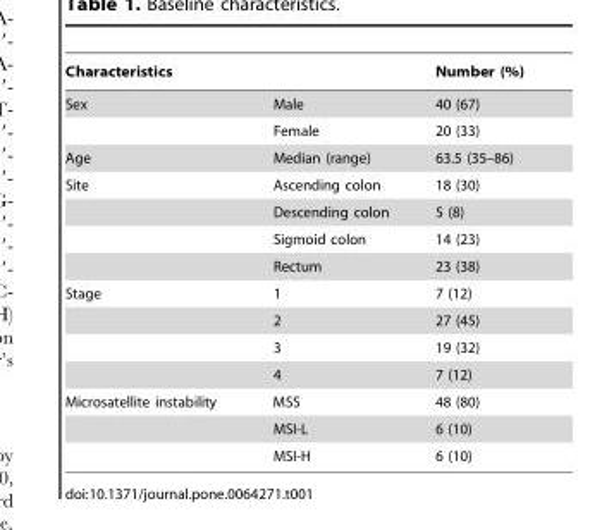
<table><thead><tr><td colspan="2">Characteristics</td><td rowspan="2">Number (%) 40 (67)</td></tr><tr><td>Sex</td><td>Male</td></tr></thead><tbody><tr><td></td><td>Female</td><td>20 (33)</td></tr><tr><td>Age</td><td>Median (range)</td><td>63.5 (35–86)</td></tr><tr><td rowspan="4">Site</td><td>Ascending colon</td><td>18 (30)</td></tr><tr><td>Descending colon</td><td>5 (8)</td></tr><tr><td>Sigmoid colon</td><td>14 (23)</td></tr><tr><td>Rectum</td><td>23 (38)</td></tr><tr><td rowspan="4">Stage</td><td>1</td><td>7 (12)</td></tr><tr><td>2</td><td>27 (45)</td></tr><tr><td>3</td><td>19 (32)</td></tr><tr><td>4</td><td>7 (12)</td></tr><tr><td rowspan="3">Microsatellite instability</td><td>MSS</td><td>48 (80)</td></tr><tr><td>MSI-L</td><td>6 (10)</td></tr><tr><td>MSI-H</td><td>6 (10)</td></tr></tbody></table>